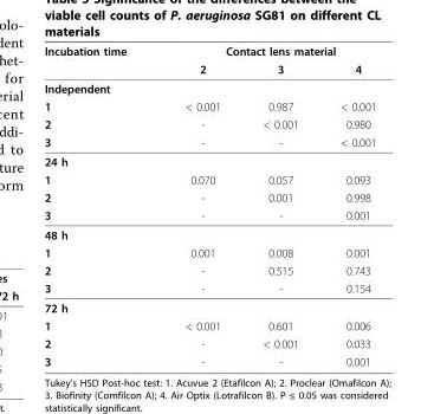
<table><thead><tr><td rowspan="2">Incubation time</td><td colspan="3">Contact lens material</td></tr><tr><td>2</td><td>3</td><td>4</td></tr></thead><tbody><tr><td colspan="4">Independent</td></tr><tr><td>1</td><td>&lt; 0.001</td><td>0.987</td><td>&lt; 0.001</td></tr><tr><td>2</td><td>-</td><td>&lt; 0.001</td><td>0.980</td></tr><tr><td>3</td><td>-</td><td>-</td><td>&lt; 0.001</td></tr><tr><td colspan="4">24 h</td></tr><tr><td>1</td><td>0.070</td><td>0.057</td><td>0.093</td></tr><tr><td>2</td><td>-</td><td>0.001</td><td>0.998</td></tr><tr><td>3</td><td>-</td><td>-</td><td>0.001</td></tr><tr><td colspan="4">48 h</td></tr><tr><td>1</td><td>0.001</td><td>0.008</td><td>0.001</td></tr><tr><td>2</td><td>-</td><td>0.515</td><td>0.743</td></tr><tr><td>3</td><td>-</td><td>-</td><td>0.154</td></tr><tr><td colspan="4">72 h</td></tr><tr><td>1</td><td>&lt; 0.001</td><td>0.601</td><td>0.006</td></tr><tr><td>2</td><td>-</td><td>&lt; 0.001</td><td>0.033</td></tr><tr><td>3</td><td>-</td><td>-</td><td>0.001</td></tr></tbody></table>